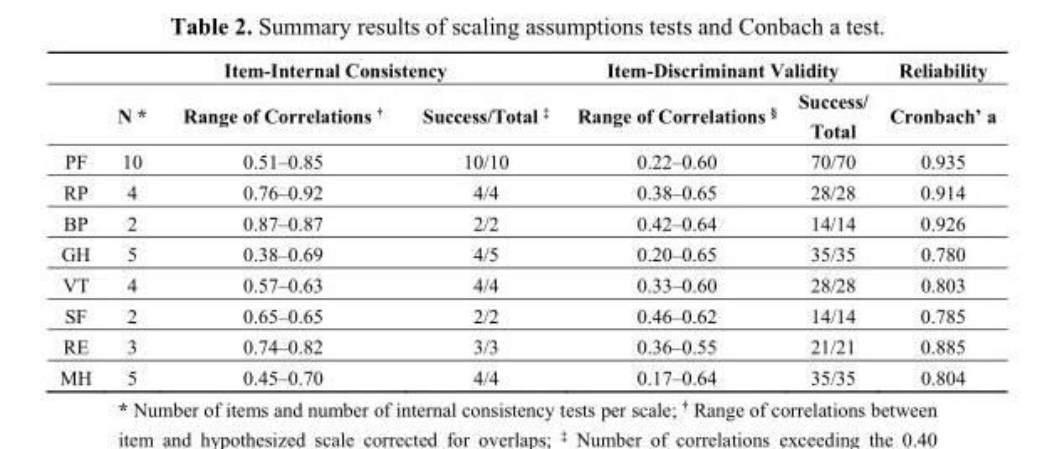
<table><thead><tr><td rowspan="2"></td><td colspan="3">Item-Internal Consistency</td><td colspan="2">Item-Discriminant Validity</td><td rowspan="2">Reliability Cronbach’ a</td></tr><tr><td>N *</td><td>Range of Correlations <sup>†</sup></td><td>Success/Total <sup>‡</sup></td><td>Range of Correlations <sup>§</sup></td><td>Success/ Total</td></tr></thead><tbody><tr><td>PF</td><td>10</td><td>0.51–0.85</td><td>10/10</td><td>0.22–0.60</td><td>70/70</td><td>0.935</td></tr><tr><td>RP</td><td>4</td><td>0.76–0.92</td><td>4/4</td><td>0.38–0.65</td><td>28/28</td><td>0.914</td></tr><tr><td>BP</td><td>2</td><td>0.87–0.87</td><td>2/2</td><td>0.42–0.64</td><td>14/14</td><td>0.926</td></tr><tr><td>GH</td><td>5</td><td>0.38–0.69</td><td>4/5</td><td>0.20–0.65</td><td>35/35</td><td>0.780</td></tr><tr><td>VT</td><td>4</td><td>0.57–0.63</td><td>4/4</td><td>0.33–0.60</td><td>28/28</td><td>0.803</td></tr><tr><td>SF</td><td>2</td><td>0.65–0.65</td><td>2/2</td><td>0.46–0.62</td><td>14/14</td><td>0.785</td></tr><tr><td>RE</td><td>3</td><td>0.74–0.82</td><td>3/3</td><td>0.36–0.55</td><td>21/21</td><td>0.885</td></tr><tr><td>MH</td><td>5</td><td>0.45–0.70</td><td>4/4</td><td>0.17–0.64</td><td>35/35</td><td>0.804</td></tr></tbody></table>